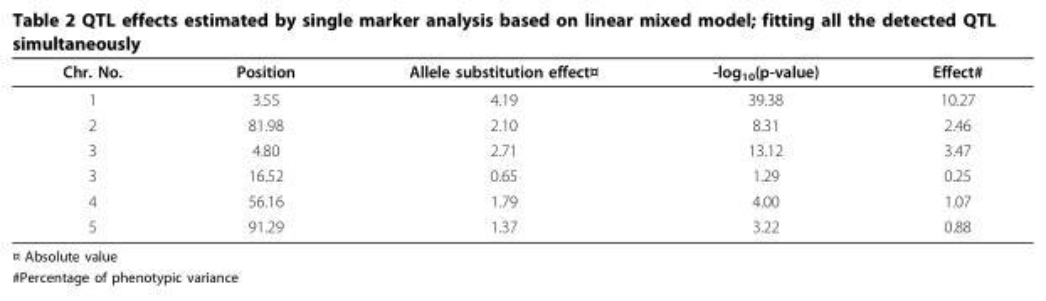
<table><thead><tr><td>Chr. No.</td><td>Position</td><td>Allele substitution effect¤</td><td>-log<sub>10</sub>(p-value)</td><td>Effect#</td></tr></thead><tbody><tr><td>1</td><td>3.55</td><td>4.19</td><td>39.38</td><td>10.27</td></tr><tr><td>2</td><td>81.98</td><td>2.10</td><td>8.31</td><td>2.46</td></tr><tr><td>3</td><td>4.80</td><td>2.71</td><td>13.12</td><td>3.47</td></tr><tr><td>3</td><td>16.52</td><td>0.65</td><td>1.29</td><td>0.25</td></tr><tr><td>4</td><td>56.16</td><td>1.79</td><td>4.00</td><td>1.07</td></tr><tr><td>5</td><td>91.29</td><td>1.37</td><td>3.22</td><td>0.88</td></tr></tbody></table>